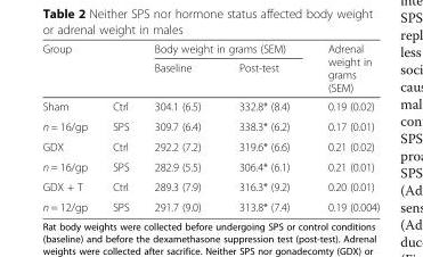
<table><thead><tr><td rowspan="2" colspan="2">Group</td><td colspan="2">Body weight in grams (SEM)</td><td rowspan="3">Adrenal weight in grams (SEM) 0.19 (0.02)</td></tr><tr><td rowspan="2">Baseline 304.1 (6.5)</td><td rowspan="2">Post-test 332.8* (8.4)</td></tr><tr><td>Sham</td><td>Ctrl</td></tr></thead><tbody><tr><td>n = 16/gp</td><td>SPS</td><td>309.7 (6.4)</td><td>338.3* (6.2)</td><td>0.17 (0.01)</td></tr><tr><td>GDX</td><td>Ctrl</td><td>292.2 (7.2)</td><td>319.6* (6.6)</td><td>0.21 (0.02)</td></tr><tr><td>n = 16/gp</td><td>SPS</td><td>282.9 (5.5)</td><td>306.4* (6.1)</td><td>0.21 (0.01)</td></tr><tr><td>GDX + T</td><td>Ctrl</td><td>289.3 (7.9)</td><td>316.3* (9.2)</td><td>0.20 (0.01)</td></tr><tr><td>n = 12/gp</td><td>SPS</td><td>291.7 (9.0)</td><td>313.8* (7.4)</td><td>0.19 (0.004)</td></tr></tbody></table>